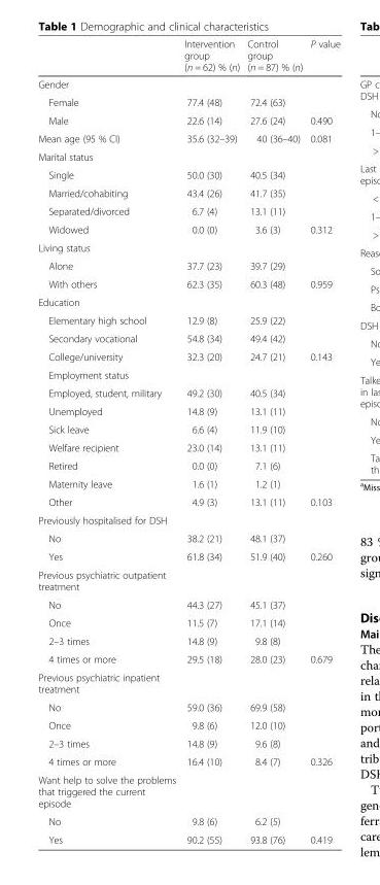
<table><thead><tr><td></td><td>Intervention group (n = 62) % (n)</td><td>Control group (n = 87) % (n)</td><td>P value</td></tr></thead><tbody><tr><td colspan="4">Gender</td></tr><tr><td>Female</td><td>77.4 (48)</td><td>72.4 (63)</td><td></td></tr><tr><td>Male</td><td>22.6 (14)</td><td>27.6 (24)</td><td>0.490</td></tr><tr><td>Mean age (95 % CI)</td><td>35.6 (32–39)</td><td>40 (36–40)</td><td>0.081</td></tr><tr><td colspan="4">Marital status</td></tr><tr><td>Single</td><td>50.0 (30)</td><td>40.5 (34)</td><td></td></tr><tr><td>Married/cohabiting</td><td>43.4 (26)</td><td>41.7 (35)</td><td></td></tr><tr><td>Separated/divorced</td><td>6.7 (4)</td><td>13.1 (11)</td><td></td></tr><tr><td>Widowed</td><td>0.0 (0)</td><td>3.6 (3)</td><td>0.312</td></tr><tr><td colspan="4">Living status</td></tr><tr><td>Alone</td><td>37.7 (23)</td><td>39.7 (29)</td><td></td></tr><tr><td>With others</td><td>62.3 (35)</td><td>60.3 (48)</td><td>0.959</td></tr><tr><td colspan="4">Education</td></tr><tr><td>Elementary high school</td><td>12.9 (8)</td><td>25.9 (22)</td><td></td></tr><tr><td>Secondary vocational</td><td>54.8 (34)</td><td>49.4 (42)</td><td></td></tr><tr><td>College/university</td><td>32.3 (20)</td><td>24.7 (21)</td><td>0.143</td></tr><tr><td colspan="4">Employment status</td></tr><tr><td>Employed, student, military</td><td>49.2 (30)</td><td>40.5 (34)</td><td></td></tr><tr><td>Unemployed</td><td>14.8 (9)</td><td>13.1 (11)</td><td></td></tr><tr><td>Sick leave</td><td>6.6 (4)</td><td>11.9 (10)</td><td></td></tr><tr><td>Welfare recipient</td><td>23.0 (14)</td><td>13.1 (11)</td><td></td></tr><tr><td>Retired</td><td>0.0 (0)</td><td>7.1 (6)</td><td></td></tr><tr><td>Maternity leave</td><td>1.6 (1)</td><td>1.2 (1)</td><td></td></tr><tr><td>Other</td><td>4.9 (3)</td><td>13.1 (11)</td><td>0.103</td></tr><tr><td colspan="4">Previously hospitalised for DSH</td></tr><tr><td>No</td><td>38.2 (21)</td><td>48.1 (37)</td><td></td></tr><tr><td>Yes</td><td>61.8 (34)</td><td>51.9 (40)</td><td>0.260</td></tr><tr><td colspan="4">Previous psychiatric outpatient treatment</td></tr><tr><td>No</td><td>44.3 (27)</td><td>45.1 (37)</td><td></td></tr><tr><td>Once</td><td>11.5 (7)</td><td>17.1 (14)</td><td></td></tr><tr><td>2–3 times</td><td>14.8 (9)</td><td>9.8 (8)</td><td></td></tr><tr><td>4 times or more</td><td>29.5 (18)</td><td>28.0 (23)</td><td>0.679</td></tr><tr><td colspan="4">Previous psychiatric inpatient treatment</td></tr><tr><td>No</td><td>59.0 (36)</td><td>69.9 (58)</td><td></td></tr><tr><td>Once</td><td>9.8 (6)</td><td>12.0 (10)</td><td></td></tr><tr><td>2–3 times</td><td>14.8 (9)</td><td>9.6 (8)</td><td></td></tr><tr><td>4 times or more</td><td>16.4 (10)</td><td>8.4 (7)</td><td>0.326</td></tr><tr><td colspan="4">Want help to solve the problems that triggered the current episode</td></tr><tr><td>No</td><td>9.8 (6)</td><td>6.2 (5)</td><td></td></tr><tr><td>Yes</td><td>90.2 (55)</td><td>93.8 (76)</td><td>0.419</td></tr></tbody></table>